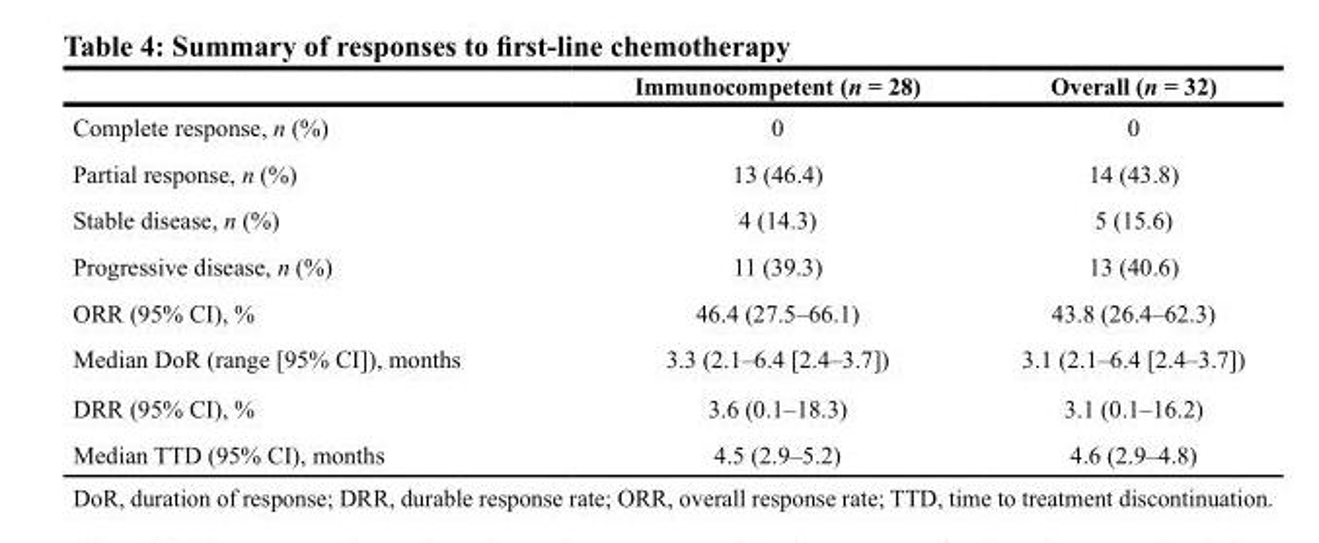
<table><thead><tr><td></td><td>Immunocompetent (n = 28)</td><td>Overall (n = 32)</td></tr></thead><tbody><tr><td>Complete response, n (%)</td><td>0</td><td>0</td></tr><tr><td>Partial response, n (%)</td><td>13 (46.4)</td><td>14 (43.8)</td></tr><tr><td>Stable disease, n (%)</td><td>4 (14.3)</td><td>5 (15.6)</td></tr><tr><td>Progressive disease, n (%)</td><td>11 (39.3)</td><td>13 (40.6)</td></tr><tr><td>ORR (95% CI), %</td><td>46.4 (27.5–66.1)</td><td>43.8 (26.4–62.3)</td></tr><tr><td>Median DoR (range [95% CI]), months</td><td>3.3 (2.1–6.4 [2.4–3.7])</td><td>3.1 (2.1–6.4 [2.4–3.7])</td></tr><tr><td>DRR (95% CI), %</td><td>3.6 (0.1–18.3)</td><td>3.1 (0.1–16.2)</td></tr><tr><td>Median TTD (95% CI), months</td><td>4.5 (2.9–5.2)</td><td>4.6 (2.9–4.8)</td></tr></tbody></table>